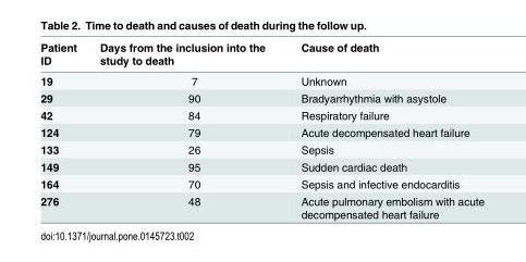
<table><thead><tr><td>Patient ID</td><td>Days from the inclusion into the study to death</td><td>Cause of death</td></tr></thead><tbody><tr><td>19</td><td>7</td><td>Unknown</td></tr><tr><td>29</td><td>90</td><td>Bradyarrhythmia with asystole</td></tr><tr><td>42</td><td>84</td><td>Respiratory failure</td></tr><tr><td>124</td><td>79</td><td>Acute decompensated heart failure</td></tr><tr><td>133</td><td>26</td><td>Sepsis</td></tr><tr><td>149</td><td>95</td><td>Sudden cardiac death</td></tr><tr><td>164</td><td>70</td><td>Sepsis and infective endocarditis</td></tr><tr><td>276</td><td>48</td><td>Acute pulmonary embolism with acute decompensated heart failure</td></tr></tbody></table>